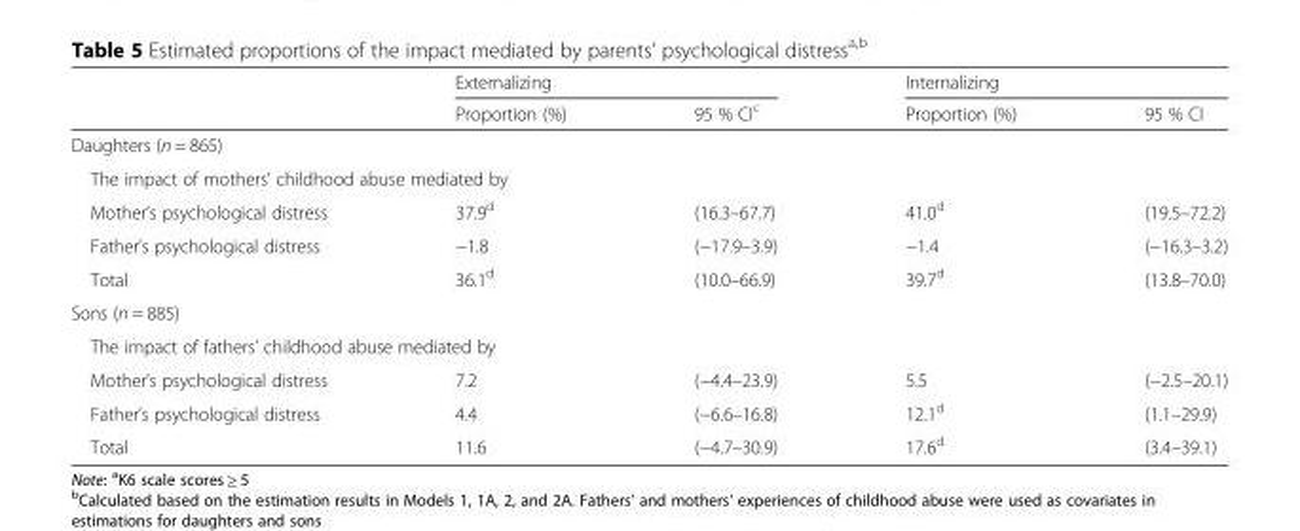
<table><thead><tr><td rowspan="2"></td><td colspan="2">Externalizing</td><td colspan="2">Internalizing</td></tr><tr><td>Proportion (%)</td><td>95 % CI<sup>c</sup></td><td>Proportion (%)</td><td>95 % CI</td></tr></thead><tbody><tr><td colspan="5">Daughters (n = 865)</td></tr><tr><td colspan="5">The impact of mothers’ childhood abuse mediated by</td></tr><tr><td>Mother’s psychological distress</td><td>37.9<sup>d</sup></td><td>(16.3–67.7)</td><td>41.0<sup>d</sup></td><td>(19.5–72.2)</td></tr><tr><td>Father’s psychological distress</td><td>−1.8</td><td>(−17.9–3.9)</td><td>−1.4</td><td>(−16.3–3.2)</td></tr><tr><td>Total</td><td>36.1<sup>d</sup></td><td>(10.0–66.9)</td><td>39.7<sup>d</sup></td><td>(13.8–70.0)</td></tr><tr><td colspan="5">Sons (n = 885)</td></tr><tr><td colspan="5">The impact of fathers’ childhood abuse mediated by</td></tr><tr><td>Mother’s psychological distress</td><td>7.2</td><td>(−4.4–23.9)</td><td>5.5</td><td>(−2.5–20.1)</td></tr><tr><td>Father’s psychological distress</td><td>4.4</td><td>(−6.6–16.8)</td><td>12.1<sup>d</sup></td><td>(1.1–29.9)</td></tr><tr><td>Total</td><td>11.6</td><td>(−4.7–30.9)</td><td>17.6<sup>d</sup></td><td>(3.4–39.1)</td></tr></tbody></table>